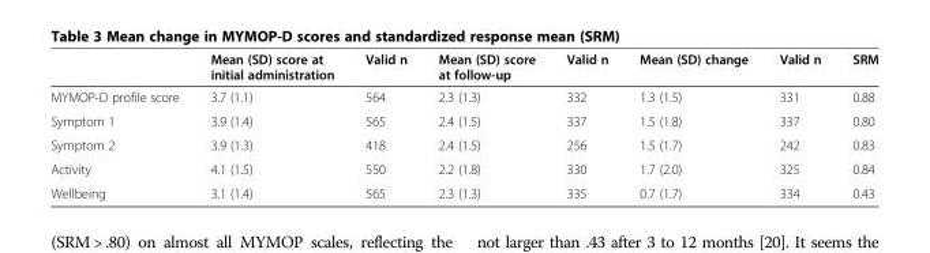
<table><thead><tr><td></td><td>Mean (SD) score at initial administration</td><td>Valid n</td><td>Mean (SD) score at follow-up</td><td>Valid n</td><td>Mean (SD) change</td><td>Valid n</td><td>SRM</td></tr></thead><tbody><tr><td>MYMOP-D profile score</td><td>3.7 (1.1)</td><td>564</td><td>2.3 (1.3)</td><td>332</td><td>1.3 (1.5)</td><td>331</td><td>0.88</td></tr><tr><td>Symptom 1</td><td>3.9 (1.4)</td><td>565</td><td>2.4 (1.5)</td><td>337</td><td>1.5 (1.8)</td><td>337</td><td>0.80</td></tr><tr><td>Symptom 2</td><td>3.9 (1.3)</td><td>418</td><td>2.4 (1.5)</td><td>256</td><td>1.5 (1.7)</td><td>242</td><td>0.83</td></tr><tr><td>Activity</td><td>4.1 (1.5)</td><td>550</td><td>2.2 (1.8)</td><td>330</td><td>1.7 (2.0)</td><td>325</td><td>0.84</td></tr><tr><td>Wellbeing</td><td>3.1 (1.4)</td><td>565</td><td>2.3 (1.3)</td><td>335</td><td>0.7 (1.7)</td><td>334</td><td>0.43</td></tr></tbody></table>